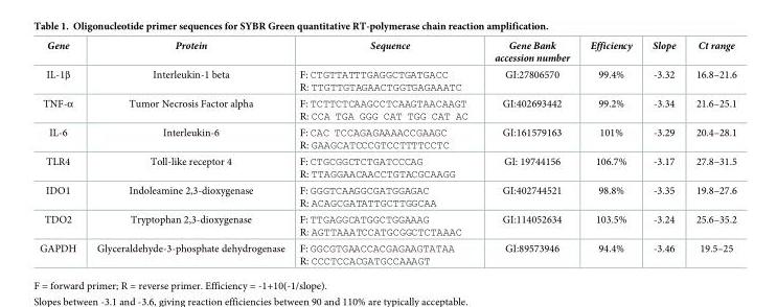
<table><thead><tr><td>Gene</td><td>Protein</td><td>Sequence</td><td>Gene Bank accession number</td><td>Efficiency</td><td>Slope</td><td>Ct range</td></tr></thead><tbody><tr><td>IL-1β</td><td>Interleukin-1 beta</td><td>F: CTGTTATTTGAGGCTGATGACC R: TTGTTGTAGAACTGGTGAGAAATC</td><td>GI:27806570</td><td>99.4%</td><td>-3.32</td><td>16.8–21.6</td></tr><tr><td>TNF-α</td><td>Tumor Necrosis Factor alpha</td><td>F: TCTTCTCAAGCCTCAAGTAACAAGT R: CCA TGA GGG CAT TGG CAT AC</td><td>GI:402693442</td><td>99.2%</td><td>-3.34</td><td>21.6–25.1</td></tr><tr><td>IL-6</td><td>Interleukin-6</td><td>F: CAC TCCAGAGAAAACCGAAGC R: GAAGCATCCCGTCCTTTTCCTC</td><td>GI:161579163</td><td>101%</td><td>-3.29</td><td>20.4–28.1</td></tr><tr><td>TLR4</td><td>Toll-like receptor 4</td><td>F: CTGCGGCTCTGATCCCAG R: TTAGGAACAACCTGTACGCAAGG</td><td>GI: 19744156</td><td>106.7%</td><td>-3.17</td><td>27.8–31.5</td></tr><tr><td>IDO1</td><td>Indoleamine 2,3-dioxygenase</td><td>F: GGGTCAAGGCGATGGAGAC R: ACAGCGATATTGCTTGGCAA</td><td>GI:402744521</td><td>98.8%</td><td>-3.35</td><td>19.8–27.6</td></tr><tr><td>TDO2</td><td>Tryptophan 2,3-dioxygenase</td><td>F: TTGAGGCATGGCTGGAAAG R: AGTTAAATCCATGCGGCTCTAAAC</td><td>GI:114052634</td><td>103.5%</td><td>-3.24</td><td>25.6–35.2</td></tr><tr><td>GAPDH</td><td>Glyceraldehyde-3-phosphate dehydrogenase</td><td>F: GGCGTGAACCACGAGAAGTATAA R: CCCTCCACGATGCCAAAGT</td><td>GI:89573946</td><td>94.4%</td><td>-3.46</td><td>19.5–25</td></tr></tbody></table>